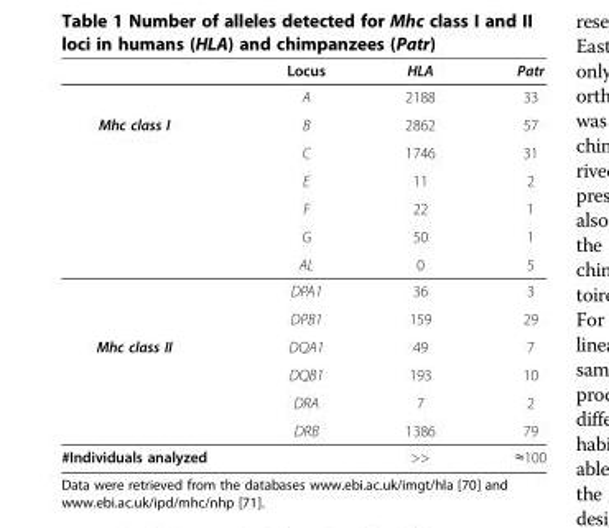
<table><thead><tr><td></td><td>Locus</td><td>HLA</td><td>Patr</td></tr></thead><tbody><tr><td></td><td>A</td><td>2188</td><td>33</td></tr><tr><td rowspan="8">Mhc class I</td><td>B</td><td>2862</td><td>57</td></tr><tr><td>C</td><td>1746</td><td>31</td></tr><tr><td>E</td><td>11</td><td>2</td></tr><tr><td>F</td><td>22</td><td>1</td></tr><tr><td>G</td><td>50</td><td>1</td></tr><tr><td>AL</td><td>0</td><td>5</td></tr><tr><td>DPA1</td><td>36</td><td>3</td></tr><tr><td>DPB1</td><td>159</td><td>29</td></tr><tr><td rowspan="4">Mhc class II</td><td>DQA1</td><td>49</td><td>7</td></tr><tr><td>DQB1</td><td>193</td><td>10</td></tr><tr><td>DRA</td><td>7</td><td>2</td></tr><tr><td>DRB</td><td>1386</td><td>79</td></tr><tr><td>#Individuals analyzed</td><td></td><td>&gt;&gt;</td><td>≈100</td></tr></tbody></table>